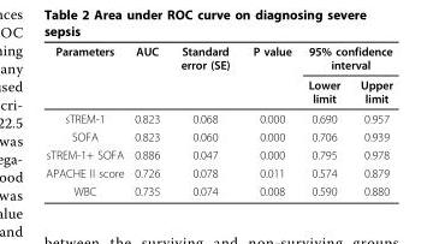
<table><thead><tr><td rowspan="2">Parameters</td><td rowspan="2">AUC</td><td rowspan="2">Standard error (SE)</td><td rowspan="2">P value</td><td colspan="2">95% confidence interval</td></tr><tr><td>Lower limit</td><td>Upper limit</td></tr></thead><tbody><tr><td>sTREM-1</td><td>0.823</td><td>0.068</td><td>0.000</td><td>0.690</td><td>0.957</td></tr><tr><td>SOFA</td><td>0.823</td><td>0.060</td><td>0.000</td><td>0.706</td><td>0.939</td></tr><tr><td>sTREM-1+ SOFA</td><td>0.886</td><td>0.047</td><td>0.000</td><td>0.795</td><td>0.978</td></tr><tr><td>APACHE II score</td><td>0.726</td><td>0.078</td><td>0.011</td><td>0.574</td><td>0.879</td></tr><tr><td>WBC</td><td>0.735</td><td>0.074</td><td>0.008</td><td>0.590</td><td>0.880</td></tr></tbody></table>